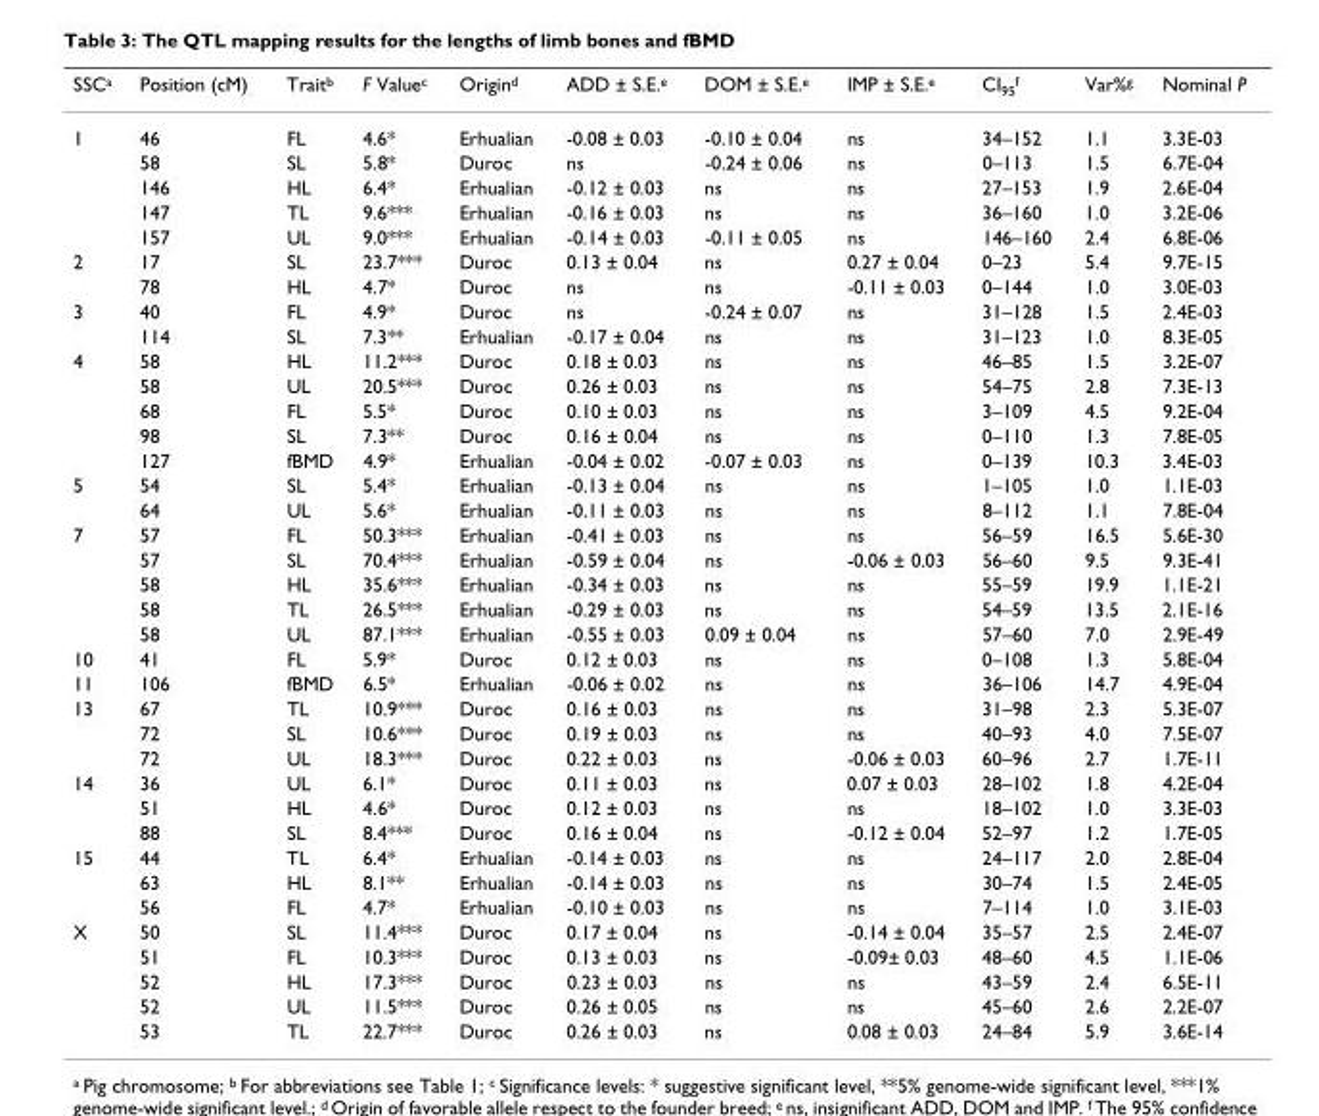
<table><thead><tr><td>SSC<sup>a</sup></td><td>Position (cM)</td><td>Trait<sup>b</sup></td><td>F Value<sup>c</sup></td><td>Origin<sup>d</sup></td><td>ADD ± S.E.<sup>e</sup></td><td>DOM ± S.E.<sup>e</sup></td><td>IMP ± S.E.<sup>e</sup></td><td>CI<sub>95</sub><sup>f</sup></td><td>Var%<sup>g</sup></td><td>Nominal P</td></tr></thead><tbody><tr><td rowspan="5">1</td><td>46</td><td>FL</td><td>4.6*</td><td>Erhualian</td><td>-0.08 ± 0.03</td><td>-0.10 ± 0.04</td><td>ns</td><td>34–152</td><td>1.1</td><td>3.3E-03</td></tr><tr><td>58</td><td>SL</td><td>5.8*</td><td>Duroc</td><td>ns</td><td>-0.24 ± 0.06</td><td>ns</td><td>0–113</td><td>1.5</td><td>6.7E-04</td></tr><tr><td>146</td><td>HL</td><td>6.4*</td><td>Erhualian</td><td>-0.12 ± 0.03</td><td>ns</td><td>ns</td><td>27–153</td><td>1.9</td><td>2.6E-04</td></tr><tr><td>147</td><td>TL</td><td>9.6***</td><td>Erhualian</td><td>-0.16 ± 0.03</td><td>ns</td><td>ns</td><td>36–160</td><td>1.0</td><td>3.2E-06</td></tr><tr><td>157</td><td>UL</td><td>9.0***</td><td>Erhualian</td><td>-0.14 ± 0.03</td><td>-0.11 ± 0.05</td><td>ns</td><td>146–160</td><td>2.4</td><td>6.8E-06</td></tr><tr><td rowspan="2">2</td><td>17</td><td>SL</td><td>23.7***</td><td>Duroc</td><td>0.13 ± 0.04</td><td>ns</td><td>0.27 ± 0.04</td><td>0–23</td><td>5.4</td><td>9.7E-15</td></tr><tr><td>78</td><td>HL</td><td>4.7*</td><td>Duroc</td><td>ns</td><td>ns</td><td>-0.11 ± 0.03</td><td>0–144</td><td>1.0</td><td>3.0E-03</td></tr><tr><td rowspan="2">3</td><td>40</td><td>FL</td><td>4.9*</td><td>Duroc</td><td>ns</td><td>-0.24 ± 0.07</td><td>ns</td><td>31–128</td><td>1.5</td><td>2.4E-03</td></tr><tr><td>114</td><td>SL</td><td>7.3**</td><td>Erhualian</td><td>-0.17 ± 0.04</td><td>ns</td><td>ns</td><td>31–123</td><td>1.0</td><td>8.3E-05</td></tr><tr><td rowspan="5">4</td><td>58</td><td>HL</td><td>11.2***</td><td>Duroc</td><td>0.18 ± 0.03</td><td>ns</td><td>ns</td><td>46–85</td><td>1.5</td><td>3.2E-07</td></tr><tr><td>58</td><td>UL</td><td>20.5***</td><td>Duroc</td><td>0.26 ± 0.03</td><td>ns</td><td>ns</td><td>54–75</td><td>2.8</td><td>7.3E-13</td></tr><tr><td>68</td><td>FL</td><td>5.5*</td><td>Duroc</td><td>0.10 ± 0.03</td><td>ns</td><td>ns</td><td>3–109</td><td>4.5</td><td>9.2E-04</td></tr><tr><td>98</td><td>SL</td><td>7.3**</td><td>Duroc</td><td>0.16 ± 0.04</td><td>ns</td><td>ns</td><td>0–110</td><td>1.3</td><td>7.8E-05</td></tr><tr><td>127</td><td>fBMD</td><td>4.9*</td><td>Erhualian</td><td>-0.04 ± 0.02</td><td>-0.07 ± 0.03</td><td>ns</td><td>0–139</td><td>10.3</td><td>3.4E-03</td></tr><tr><td rowspan="2">5</td><td>54</td><td>SL</td><td>5.4*</td><td>Erhualian</td><td>-0.13 ± 0.04</td><td>ns</td><td>ns</td><td>1–105</td><td>1.0</td><td>1.1E-03</td></tr><tr><td>64</td><td>UL</td><td>5.6*</td><td>Erhualian</td><td>-0.11 ± 0.03</td><td>ns</td><td>ns</td><td>8–112</td><td>1.1</td><td>7.8E-04</td></tr><tr><td rowspan="5">7</td><td>57</td><td>FL</td><td>50.3***</td><td>Erhualian</td><td>-0.41 ± 0.03</td><td>ns</td><td>ns</td><td>56–59</td><td>16.5</td><td>5.6E-30</td></tr><tr><td>57</td><td>SL</td><td>70.4***</td><td>Erhualian</td><td>-0.59 ± 0.04</td><td>ns</td><td>-0.06 ± 0.03</td><td>56–60</td><td>9.5</td><td>9.3E-41</td></tr><tr><td>58</td><td>HL</td><td>35.6***</td><td>Erhualian</td><td>-0.34 ± 0.03</td><td>ns</td><td>ns</td><td>55–59</td><td>19.9</td><td>1.1E-21</td></tr><tr><td>58</td><td>TL</td><td>26.5***</td><td>Erhualian</td><td>-0.29 ± 0.03</td><td>ns</td><td>ns</td><td>54–59</td><td>13.5</td><td>2.1E-16</td></tr><tr><td>58</td><td>UL</td><td>87.1***</td><td>Erhualian</td><td>-0.55 ± 0.03</td><td>0.09 ± 0.04</td><td>ns</td><td>57–60</td><td>7.0</td><td>2.9E-49</td></tr><tr><td>10</td><td>41</td><td>FL</td><td>5.9*</td><td>Duroc</td><td>0.12 ± 0.03</td><td>ns</td><td>ns</td><td>0–108</td><td>1.3</td><td>5.8E-04</td></tr><tr><td>11</td><td>106</td><td>fBMD</td><td>6.5*</td><td>Erhualian</td><td>-0.06 ± 0.02</td><td>ns</td><td>ns</td><td>36–106</td><td>14.7</td><td>4.9E-04</td></tr><tr><td rowspan="3">13</td><td>67</td><td>TL</td><td>10.9***</td><td>Duroc</td><td>0.16 ± 0.03</td><td>ns</td><td>ns</td><td>31–98</td><td>2.3</td><td>5.3E-07</td></tr><tr><td>72</td><td>SL</td><td>10.6***</td><td>Duroc</td><td>0.19 ± 0.03</td><td>ns</td><td>ns</td><td>40–93</td><td>4.0</td><td>7.5E-07</td></tr><tr><td>72</td><td>UL</td><td>18.3***</td><td>Duroc</td><td>0.22 ± 0.03</td><td>ns</td><td>-0.06 ± 0.03</td><td>60–96</td><td>2.7</td><td>1.7E-11</td></tr><tr><td rowspan="3">14</td><td>36</td><td>UL</td><td>6.1*</td><td>Duroc</td><td>0.11 ± 0.03</td><td>ns</td><td>0.07 ± 0.03</td><td>28–102</td><td>1.8</td><td>4.2E-04</td></tr><tr><td>51</td><td>HL</td><td>4.6*</td><td>Duroc</td><td>0.12 ± 0.03</td><td>ns</td><td>ns</td><td>18–102</td><td>1.0</td><td>3.3E-03</td></tr><tr><td>88</td><td>SL</td><td>8.4***</td><td>Duroc</td><td>0.16 ± 0.04</td><td>ns</td><td>-0.12 ± 0.04</td><td>52–97</td><td>1.2</td><td>1.7E-05</td></tr><tr><td rowspan="3">15</td><td>44</td><td>TL</td><td>6.4*</td><td>Erhualian</td><td>-0.14 ± 0.03</td><td>ns</td><td>ns</td><td>24–117</td><td>2.0</td><td>2.8E-04</td></tr><tr><td>63</td><td>HL</td><td>8.1**</td><td>Erhualian</td><td>-0.14 ± 0.03</td><td>ns</td><td>ns</td><td>30–74</td><td>1.5</td><td>2.4E-05</td></tr><tr><td>56</td><td>FL</td><td>4.7*</td><td>Erhualian</td><td>-0.10 ± 0.03</td><td>ns</td><td>ns</td><td>7–114</td><td>1.0</td><td>3.1E-03</td></tr><tr><td rowspan="5">X</td><td>50</td><td>SL</td><td>11.4***</td><td>Duroc</td><td>0.17 ± 0.04</td><td>ns</td><td>-0.14 ± 0.04</td><td>35–57</td><td>2.5</td><td>2.4E-07</td></tr><tr><td>51</td><td>FL</td><td>10.3***</td><td>Duroc</td><td>0.13 ± 0.03</td><td>ns</td><td>-0.09± 0.03</td><td>48–60</td><td>4.5</td><td>1.1E-06</td></tr><tr><td>52</td><td>HL</td><td>17.3***</td><td>Duroc</td><td>0.23 ± 0.03</td><td>ns</td><td>ns</td><td>43–59</td><td>2.4</td><td>6.5E-11</td></tr><tr><td>52</td><td>UL</td><td>11.5***</td><td>Duroc</td><td>0.26 ± 0.05</td><td>ns</td><td>ns</td><td>45–60</td><td>2.6</td><td>2.2E-07</td></tr><tr><td>53</td><td>TL</td><td>22.7***</td><td>Duroc</td><td>0.26 ± 0.03</td><td>ns</td><td>0.08 ± 0.03</td><td>24–84</td><td>5.9</td><td>3.6E-14</td></tr></tbody></table>